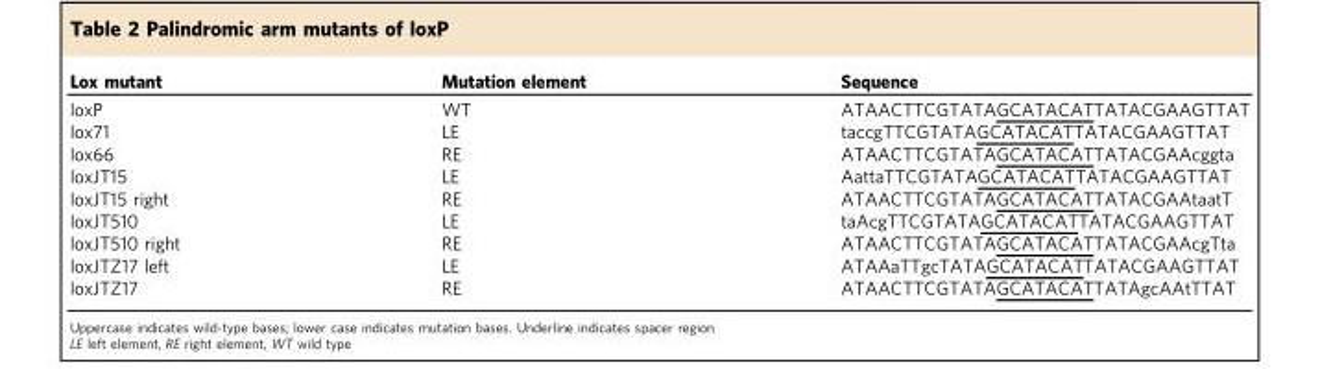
<table><thead><tr><td>Lox mutant</td><td>Mutation element</td><td>Sequence</td></tr></thead><tbody><tr><td>loxP</td><td>WT</td><td>ATAACTTCGTATAGCATACATTATACGAAGTTAT</td></tr><tr><td>lox71</td><td>LE</td><td>taccgTTCGTATAGCATACATTATACGAAGTTAT</td></tr><tr><td>lox66</td><td>RE</td><td>ATAACTTCGTATAGCATACATTATACGAAcggta</td></tr><tr><td>loxJT15</td><td>LE</td><td>AattaTTCGTATAGCATACATTATACGAAGTTAT</td></tr><tr><td>loxJT15 right</td><td>RE</td><td>ATAACTTCGTATAGCATACATTATACGAAtaatT</td></tr><tr><td>loxJT510</td><td>LE</td><td>taAcgTTCGTATAGCATACATTATACGAAGTTAT</td></tr><tr><td>loxJT510 right</td><td>RE</td><td>ATAACTTCGTATAGCATACATTATACGAAcgTta</td></tr><tr><td>loxJTZ17 left</td><td>LE</td><td>ATAAaTTgcTATAGCATACATTATACGAAGTTAT</td></tr><tr><td>loxJTZ17</td><td>RE</td><td>ATAACTTCGTATAGCATACATTATAgcAAtTTAT</td></tr></tbody></table>